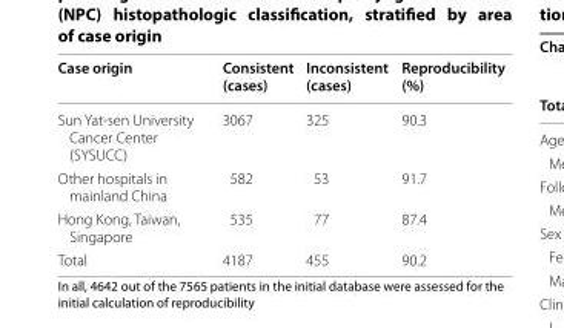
<table><thead><tr><td>Case origin</td><td>Consistent (cases)</td><td>Inconsistent (cases)</td><td>Reproducibility (%)</td></tr></thead><tbody><tr><td>Sun Yat‑sen University Cancer Center (SYSUCC)</td><td>3067</td><td>325</td><td>90.3</td></tr><tr><td>Other hospitals in mainland China</td><td>582</td><td>53</td><td>91.7</td></tr><tr><td>Hong Kong, Taiwan, Singapore</td><td>535</td><td>77</td><td>87.4</td></tr><tr><td>Total</td><td>4187</td><td>455</td><td>90.2</td></tr></tbody></table>